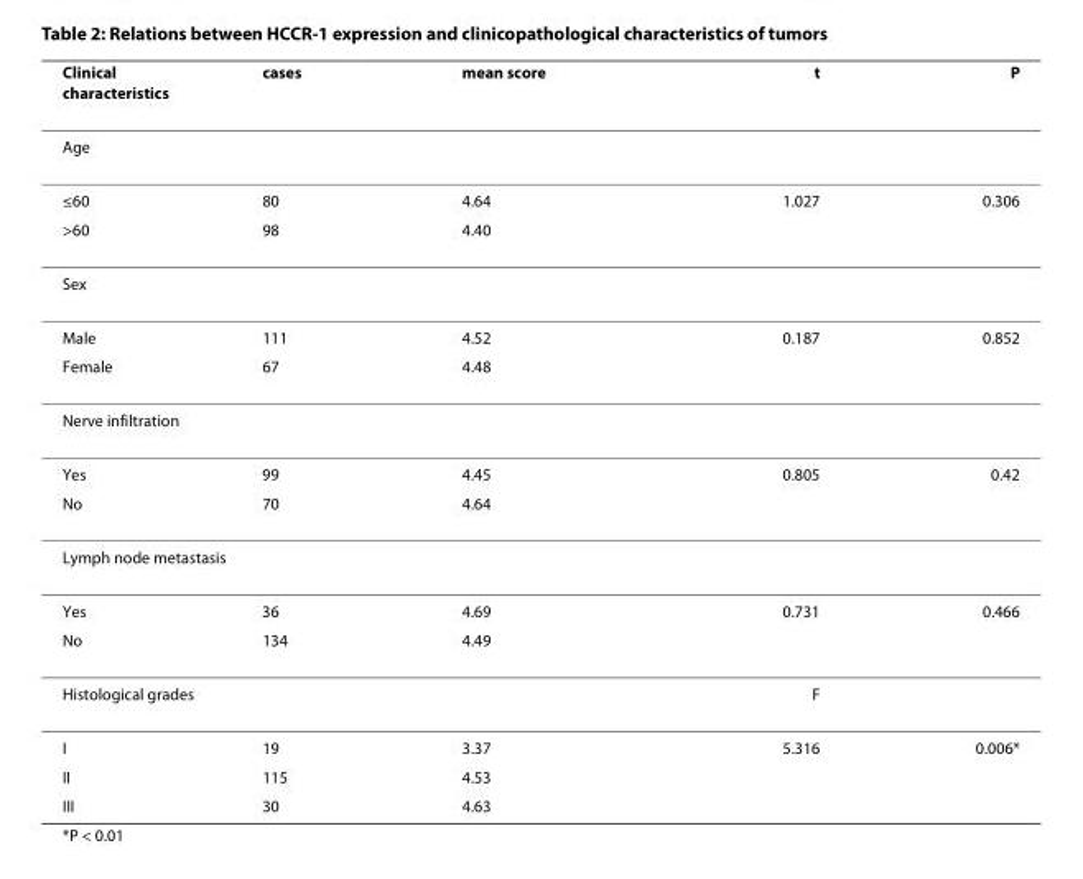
<table><thead><tr><td>Clinical characteristics</td><td>cases</td><td>mean score</td><td>t</td><td>P</td></tr></thead><tbody><tr><td colspan="5">Age</td></tr><tr><td>≤60</td><td>80</td><td>4.64</td><td>1.027</td><td>0.306</td></tr><tr><td>&gt;60</td><td>98</td><td>4.40</td><td></td><td></td></tr><tr><td colspan="5">Sex</td></tr><tr><td>Male</td><td>111</td><td>4.52</td><td>0.187</td><td>0.852</td></tr><tr><td>Female</td><td>67</td><td>4.48</td><td></td><td></td></tr><tr><td colspan="5">Nerve infiltration</td></tr><tr><td>Yes</td><td>99</td><td>4.45</td><td>0.805</td><td>0.42</td></tr><tr><td>No</td><td>70</td><td>4.64</td><td></td><td></td></tr><tr><td colspan="5">Lymph node metastasis</td></tr><tr><td>Yes</td><td>36</td><td>4.69</td><td>0.731</td><td>0.466</td></tr><tr><td>No</td><td>134</td><td>4.49</td><td></td><td></td></tr><tr><td colspan="3">Histological grades</td><td>F</td><td></td></tr><tr><td>I</td><td>19</td><td>3.37</td><td>5.316</td><td>0.006*</td></tr><tr><td>II</td><td>115</td><td>4.53</td><td></td><td></td></tr><tr><td>III</td><td>30</td><td>4.63</td><td></td><td></td></tr></tbody></table>